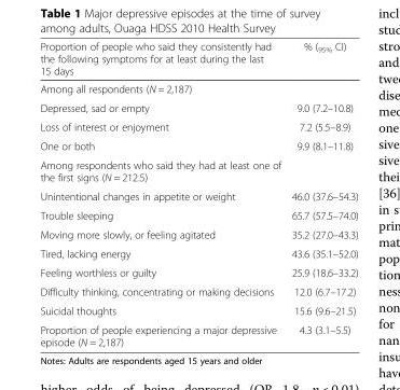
<table><thead><tr><td>Proportion of people who said they consistently had the following symptoms for at least during the last 15 days</td><td>% (<sub>95%</sub> CI)</td></tr></thead><tbody><tr><td colspan="2">Among all respondents (N = 2,187)</td></tr><tr><td>Depressed, sad or empty</td><td>9.0 (7.2–10.8)</td></tr><tr><td>Loss of interest or enjoyment</td><td>7.2 (5.5–8.9)</td></tr><tr><td>One or both</td><td>9.9 (8.1–11.8)</td></tr><tr><td colspan="2">Among respondents who said they had at least one of the first signs (N = 212.5)</td></tr><tr><td>Unintentional changes in appetite or weight</td><td>46.0 (37.6–54.3)</td></tr><tr><td>Trouble sleeping</td><td>65.7 (57.5–74.0)</td></tr><tr><td>Moving more slowly, or feeling agitated</td><td>35.2 (27.0–43.3)</td></tr><tr><td>Tired, lacking energy</td><td>43.6 (35.1–52.0)</td></tr><tr><td>Feeling worthless or guilty</td><td>25.9 (18.6–33.2)</td></tr><tr><td>Difficulty thinking, concentrating or making decisions</td><td>12.0 (6.7–17.2)</td></tr><tr><td>Suicidal thoughts</td><td>15.6 (9.6–21.5)</td></tr><tr><td>Proportion of people experiencing a major depressive episode (N = 2,187)</td><td>4.3 (3.1–5.5)</td></tr></tbody></table>